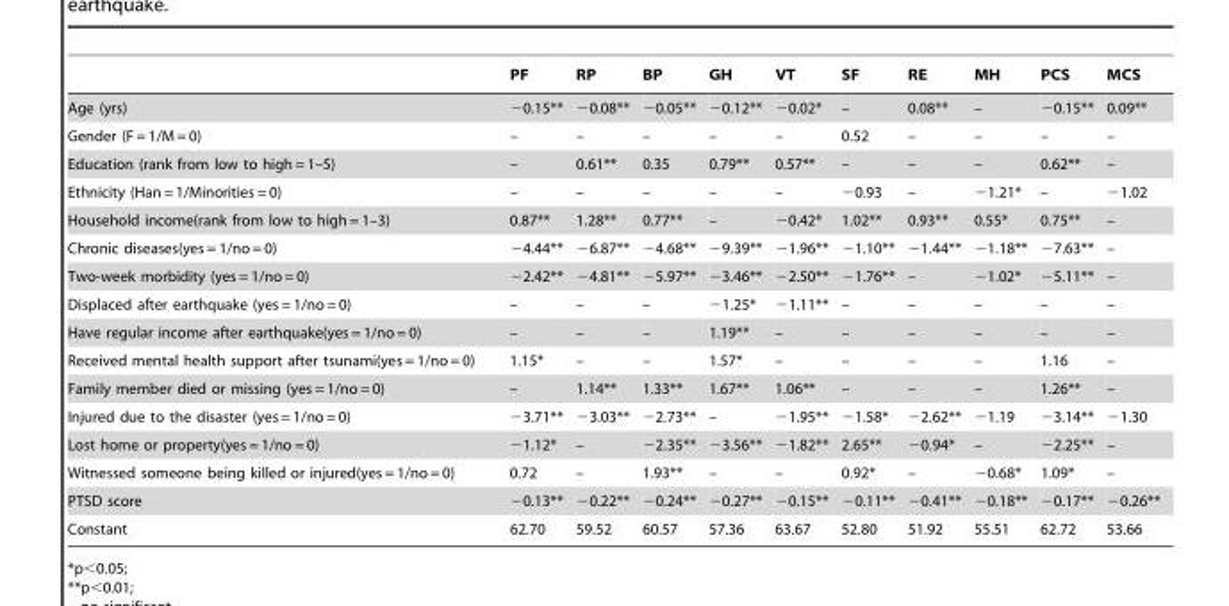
<table><thead><tr><td></td><td>PF</td><td>RP</td><td>BP</td><td>GH</td><td>VT</td><td>SF</td><td>RE</td><td>MH</td><td>PCS</td><td>MCS</td></tr></thead><tbody><tr><td>Age (yrs)</td><td>−0.15**</td><td>−0.08**</td><td>−0.05**</td><td>−0.12**</td><td>−0.02*</td><td>–</td><td>0.08**</td><td>–</td><td>−0.15**</td><td>0.09**</td></tr><tr><td>Gender (F = 1/M = 0)</td><td>–</td><td>–</td><td>–</td><td>–</td><td>–</td><td>0.52</td><td>–</td><td>–</td><td>–</td><td>–</td></tr><tr><td>Education (rank from low to high = 1–5)</td><td>–</td><td>0.61**</td><td>0.35</td><td>0.79**</td><td>0.57**</td><td>–</td><td>–</td><td>–</td><td>0.62**</td><td>–</td></tr><tr><td>Ethnicity (Han = 1/Minorities = 0)</td><td>–</td><td>–</td><td>–</td><td>–</td><td>–</td><td>−0.93</td><td>–</td><td>−1.21*</td><td>–</td><td>−1.02</td></tr><tr><td>Household income(rank from low to high = 1–3)</td><td>0.87**</td><td>1.28**</td><td>0.77**</td><td>–</td><td>−0.42*</td><td>1.02**</td><td>0.93**</td><td>0.55*</td><td>0.75**</td><td>–</td></tr><tr><td>Chronic diseases(yes = 1/no = 0)</td><td>−4.44**</td><td>−6.87**</td><td>−4.68**</td><td>−9.39**</td><td>−1.96**</td><td>−1.10**</td><td>−1.44**</td><td>−1.18**</td><td>−7.63**</td><td>–</td></tr><tr><td>Two-week morbidity (yes = 1/no = 0)</td><td>−2.42**</td><td>−4.81**</td><td>−5.97**</td><td>−3.46**</td><td>−2.50**</td><td>−1.76**</td><td>–</td><td>−1.02*</td><td>−5.11**</td><td>–</td></tr><tr><td>Displaced after earthquake (yes = 1/no = 0)</td><td>–</td><td>–</td><td>–</td><td>−1.25*</td><td>−1.11**</td><td>–</td><td>–</td><td>–</td><td>–</td><td>–</td></tr><tr><td>Have regular income after earthquake(yes = 1/no = 0)</td><td>–</td><td>–</td><td>–</td><td>1.19**</td><td>–</td><td>–</td><td>–</td><td>–</td><td>–</td><td>–</td></tr><tr><td>Received mental health support after tsunami(yes = 1/no = 0)</td><td>1.15*</td><td>–</td><td>–</td><td>1.57*</td><td>–</td><td>–</td><td>–</td><td>–</td><td>1.16</td><td>–</td></tr><tr><td>Family member died or missing (yes = 1/no = 0)</td><td>–</td><td>1.14**</td><td>1.33**</td><td>1.67**</td><td>1.06**</td><td>–</td><td>–</td><td>–</td><td>1.26**</td><td>–</td></tr><tr><td>Injured due to the disaster (yes = 1/no = 0)</td><td>−3.71**</td><td>−3.03**</td><td>−2.73**</td><td>–</td><td>−1.95**</td><td>−1.58*</td><td>−2.62**</td><td>−1.19</td><td>−3.14**</td><td>−1.30</td></tr><tr><td>Lost home or property(yes = 1/no = 0)</td><td>−1.12*</td><td>–</td><td>−2.35**</td><td>−3.56**</td><td>−1.82**</td><td>2.65**</td><td>−0.94*</td><td>–</td><td>−2.25**</td><td>–</td></tr><tr><td>Witnessed someone being killed or injured(yes = 1/no = 0)</td><td>0.72</td><td>–</td><td>1.93**</td><td>–</td><td>–</td><td>0.92*</td><td>–</td><td>−0.68*</td><td>1.09*</td><td>–</td></tr><tr><td>PTSD score</td><td>−0.13**</td><td>−0.22**</td><td>−0.24**</td><td>−0.27**</td><td>−0.15**</td><td>−0.11**</td><td>−0.41**</td><td>−0.18**</td><td>−0.17**</td><td>−0.26**</td></tr><tr><td>Constant</td><td>62.70</td><td>59.52</td><td>60.57</td><td>57.36</td><td>63.67</td><td>52.80</td><td>51.92</td><td>55.51</td><td>62.72</td><td>53.66</td></tr></tbody></table>